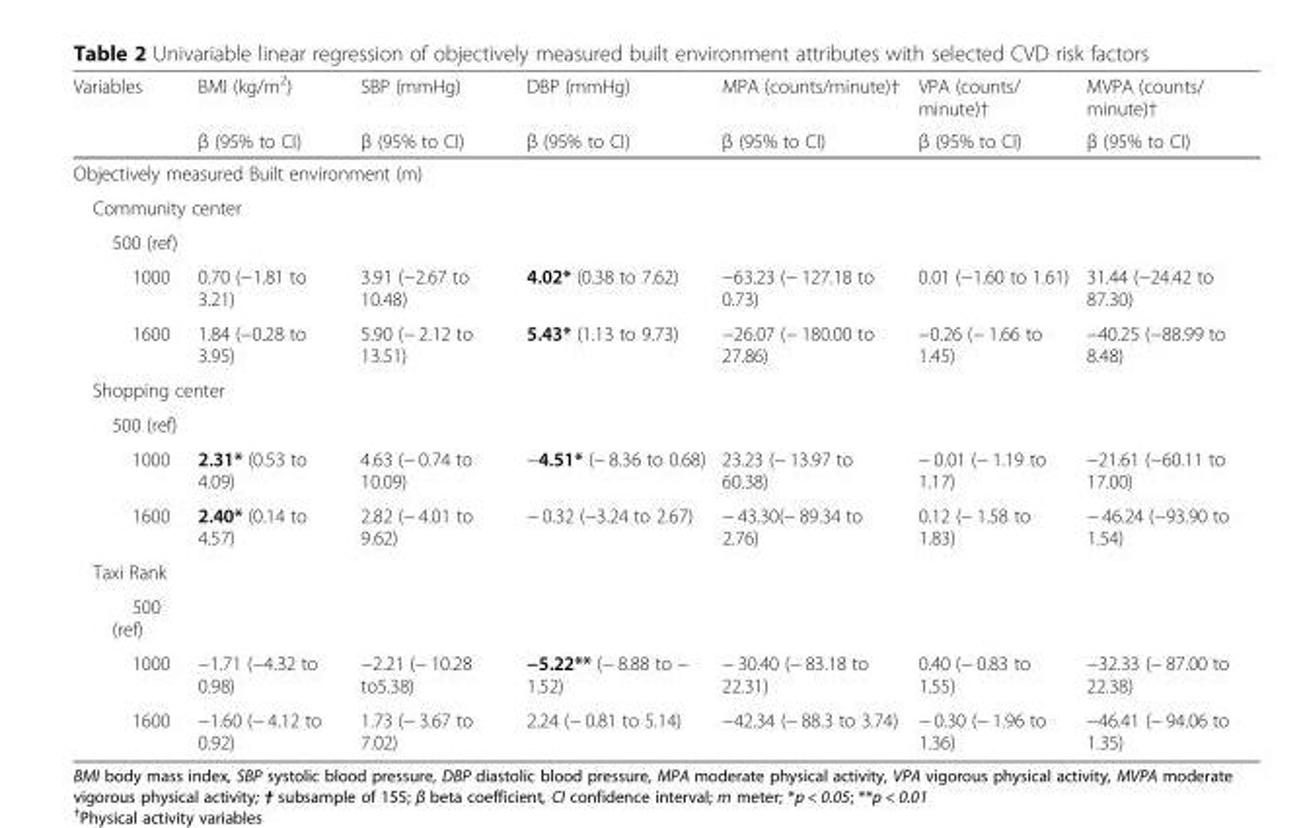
<table><thead><tr><td rowspan="2">Variables</td><td rowspan="2">BMI (kg/m<sup>2</sup>) β (95% to CI)</td><td rowspan="2">SBP (mmHg) β (95% to CI)</td><td rowspan="2">DBP (mmHg) β (95% to CI)</td><td rowspan="2">MPA (counts/minute)† β (95% to CI)</td><td rowspan="2">VPA (counts/ minute)† β (95% to CI)</td><td rowspan="2">MVPA (counts/ minute)† β (95% to CI)</td></tr><tr></tr></thead><tbody><tr><td colspan="7">Objectively measured Built environment (m)</td></tr><tr><td colspan="7">Community center</td></tr><tr><td colspan="7">500 (ref)</td></tr><tr><td>1000</td><td>0.70 (−1.81 to 3.21)</td><td>3.91 (−2.67 to 10.48)</td><td>4.02* (0.38 to 7.62)</td><td>−63.23 (− 127.18 to 0.73)</td><td>0.01 (−1.60 to 1.61)</td><td>31.44 (−24.42 to 87.30)</td></tr><tr><td>1600</td><td>1.84 (−0.28 to 3.95)</td><td>5.90 (− 2.12 to 13.51)</td><td>5.43* (1.13 to 9.73)</td><td>−26.07 (− 180.00 to 27.86)</td><td>−0.26 (− 1.66 to 1.45)</td><td>−40.25 (−88.99 to 8.48)</td></tr><tr><td colspan="7">Shopping center</td></tr><tr><td colspan="7">500 (ref)</td></tr><tr><td>1000</td><td>2.31* (0.53 to 4.09)</td><td>4.63 (− 0.74 to 10.09)</td><td>−4.51* (− 8.36 to 0.68)</td><td>23.23 (− 13.97 to 60.38)</td><td>− 0.01 (− 1.19 to 1.17)</td><td>−21.61 (−60.11 to 17.00)</td></tr><tr><td>1600</td><td>2.40* (0.14 to 4.57)</td><td>2.82 (− 4.01 to 9.62)</td><td>− 0.32 (−3.24 to 2.67)</td><td>− 43.30(− 89.34 to 2.76)</td><td>0.12 (− 1.58 to 1.83)</td><td>− 46.24 (−93.90 to 1.54)</td></tr><tr><td colspan="7">Taxi Rank</td></tr><tr><td colspan="7">500 (ref)</td></tr><tr><td>1000</td><td>−1.71 (−4.32 to 0.98)</td><td>−2.21 (− 10.28 to5.38)</td><td>−5.22** (− 8.88 to − 1.52)</td><td>− 30.40 (− 83.18 to 22.31)</td><td>0.40 (− 0.83 to 1.55)</td><td>−32.33 (− 87.00 to 22.38)</td></tr><tr><td>1600</td><td>−1.60 (− 4.12 to 0.92)</td><td>1.73 (− 3.67 to 7.02)</td><td>2.24 (− 0.81 to 5.14)</td><td>−42.34 (− 88.3 to 3.74)</td><td>− 0.30 (− 1.96 to 1.36)</td><td>−46.41 (− 94.06 to 1.35)</td></tr></tbody></table>